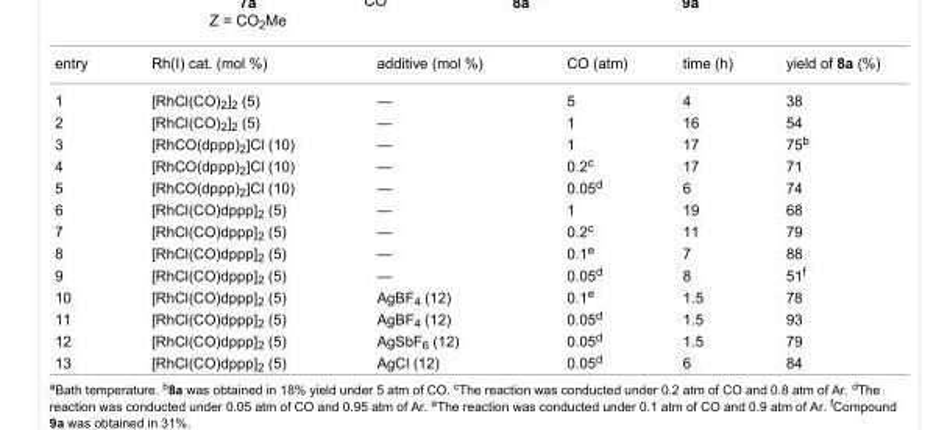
<table><tbody><tr><td>entry</td><td>Rh(I) cat. (mol %)</td><td>additive (mol %)</td><td>CO (atm)</td><td>time (h)</td><td>yield of 8a (%)</td></tr><tr><td>1</td><td>[RhCl(CO)<sub>2</sub>]<sub>2</sub> (5)</td><td>—</td><td>5</td><td>4</td><td>38</td></tr><tr><td>2</td><td>[RhCl(CO)<sub>2</sub>]<sub>2</sub> (5)</td><td>—</td><td>1</td><td>16</td><td>54</td></tr><tr><td>3</td><td>[RhCO(dppp)<sub>2</sub>]Cl (10)</td><td>—</td><td>1</td><td>17</td><td>75<sup>b</sup></td></tr><tr><td>4</td><td>[RhCO(dppp)<sub>2</sub>]Cl (10)</td><td>—</td><td>0.2<sup>c</sup></td><td>17</td><td>71</td></tr><tr><td>5</td><td>[RhCO(dppp)<sub>2</sub>]Cl (10)</td><td>—</td><td>0.05<sup>d</sup></td><td>6</td><td>74</td></tr><tr><td>6</td><td>[RhCl(CO)dppp]<sub>2</sub> (5)</td><td>—</td><td>1</td><td>19</td><td>68</td></tr><tr><td>7</td><td>[RhCl(CO)dppp]<sub>2</sub> (5)</td><td>—</td><td>0.2<sup>c</sup></td><td>11</td><td>79</td></tr><tr><td>8</td><td>[RhCl(CO)dppp]<sub>2</sub> (5)</td><td>—</td><td>0.1<sup>e</sup></td><td>7</td><td>88</td></tr><tr><td>9</td><td>[RhCl(CO)dppp]<sub>2</sub> (5)</td><td>—</td><td>0.05<sup>d</sup></td><td>8</td><td>51<sup>f</sup></td></tr><tr><td>10</td><td>[RhCl(CO)dppp]<sub>2</sub> (5)</td><td>AgBF<sub>4</sub> (12)</td><td>0.1<sup>e</sup></td><td>1.5</td><td>78</td></tr><tr><td>11</td><td>[RhCl(CO)dppp]<sub>2</sub> (5)</td><td>AgBF<sub>4</sub> (12)</td><td>0.05<sup>d</sup></td><td>1.5</td><td>93</td></tr><tr><td>12</td><td>[RhCl(CO)dppp]<sub>2</sub> (5)</td><td>AgSbF<sub>6</sub> (12)</td><td>0.05<sup>d</sup></td><td>1.5</td><td>79</td></tr><tr><td>13</td><td>[RhCl(CO)dppp]<sub>2</sub> (5)</td><td>AgCl (12)</td><td>0.05<sup>d</sup></td><td>6</td><td>84</td></tr></tbody></table>